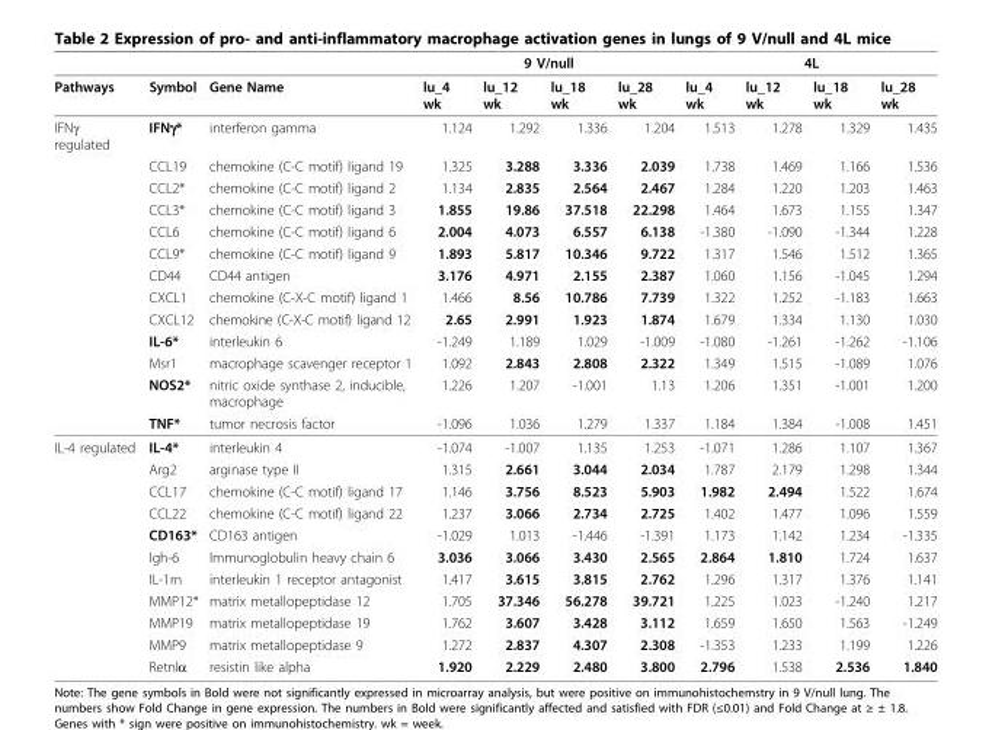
<table><thead><tr><td rowspan="2">Pathways</td><td rowspan="2">Symbol</td><td rowspan="2">Gene Name</td><td colspan="4">9 V/null</td><td colspan="4">4L</td></tr><tr><td>lu_4 wk</td><td>lu_12 wk</td><td>lu_18 wk</td><td>lu_28 wk</td><td>lu_4 wk</td><td>lu_12 wk</td><td>lu_18 wk</td><td>lu_28 wk</td></tr></thead><tbody><tr><td rowspan="13">IFNγ regulated</td><td>IFNγ*</td><td>interferon gamma</td><td>1.124</td><td>1.292</td><td>1.336</td><td>1.204</td><td>1.513</td><td>1.278</td><td>1.329</td><td>1.435</td></tr><tr><td>CCL19</td><td>chemokine (C-C motif) ligand 19</td><td>1.325</td><td>3.288</td><td>3.336</td><td>2.039</td><td>1.738</td><td>1.469</td><td>1.166</td><td>1.536</td></tr><tr><td>CCL2*</td><td>chemokine (C-C motif) ligand 2</td><td>1.134</td><td>2.835</td><td>2.564</td><td>2.467</td><td>1.284</td><td>1.220</td><td>1.203</td><td>1.463</td></tr><tr><td>CCL3*</td><td>chemokine (C-C motif) ligand 3</td><td>1.855</td><td>19.86</td><td>37.518</td><td>22.298</td><td>1.464</td><td>1.673</td><td>1.155</td><td>1.347</td></tr><tr><td>CCL6</td><td>chemokine (C-C motif) ligand 6</td><td>2.004</td><td>4.073</td><td>6.557</td><td>6.138</td><td>-1.380</td><td>-1.090</td><td>-1.344</td><td>1.228</td></tr><tr><td>CCL9*</td><td>chemokine (C-C motif) ligand 9</td><td>1.893</td><td>5.817</td><td>10.346</td><td>9.722</td><td>1.317</td><td>1.546</td><td>1.512</td><td>1.365</td></tr><tr><td>CD44</td><td>CD44 antigen</td><td>3.176</td><td>4.971</td><td>2.155</td><td>2.387</td><td>1.060</td><td>1.156</td><td>-1.045</td><td>1.294</td></tr><tr><td>CXCL1</td><td>chemokine (C-X-C motif) ligand 1</td><td>1.466</td><td>8.56</td><td>10.786</td><td>7.739</td><td>1.322</td><td>1.252</td><td>-1.183</td><td>1.663</td></tr><tr><td>CXCL12</td><td>chemokine (C-X-C motif) ligand 12</td><td>2.65</td><td>2.991</td><td>1.923</td><td>1.874</td><td>1.679</td><td>1.334</td><td>1.130</td><td>1.030</td></tr><tr><td>IL-6*</td><td>interleukin 6</td><td>-1.249</td><td>1.189</td><td>1.029</td><td>-1.009</td><td>-1.080</td><td>-1.261</td><td>-1.262</td><td>-1.106</td></tr><tr><td>Msr1</td><td>macrophage scavenger receptor 1</td><td>1.092</td><td>2.843</td><td>2.808</td><td>2.322</td><td>1.349</td><td>1.515</td><td>-1.089</td><td>1.076</td></tr><tr><td>NOS2*</td><td>nitric oxide synthase 2, inducible, macrophage</td><td>1.226</td><td>1.207</td><td>-1.001</td><td>1.13</td><td>1.206</td><td>1.351</td><td>-1.001</td><td>1.200</td></tr><tr><td>TNF*</td><td>tumor necrosis factor</td><td>-1.096</td><td>1.036</td><td>1.279</td><td>1.337</td><td>1.184</td><td>1.384</td><td>-1.008</td><td>1.451</td></tr><tr><td rowspan="11">IL-4 regulated</td><td>IL-4*</td><td>interleukin 4</td><td>-1.074</td><td>-1.007</td><td>1.135</td><td>1.253</td><td>-1.071</td><td>1.286</td><td>1.107</td><td>1.367</td></tr><tr><td>Arg2</td><td>arginase type II</td><td>1.315</td><td>2.661</td><td>3.044</td><td>2.034</td><td>1.787</td><td>2.179</td><td>1.298</td><td>1.344</td></tr><tr><td>CCL17</td><td>chemokine (C-C motif) ligand 17</td><td>1.146</td><td>3.756</td><td>8.523</td><td>5.903</td><td>1.982</td><td>2.494</td><td>1.522</td><td>1.674</td></tr><tr><td>CCL22</td><td>chemokine (C-C motif) ligand 22</td><td>1.237</td><td>3.066</td><td>2.734</td><td>2.725</td><td>1.402</td><td>1.477</td><td>1.096</td><td>1.559</td></tr><tr><td>CD163*</td><td>CD163 antigen</td><td>-1.029</td><td>1.013</td><td>-1.446</td><td>-1.391</td><td>1.173</td><td>1.142</td><td>1.234</td><td>-1.335</td></tr><tr><td>Igh-6</td><td>Immunoglobulin heavy chain 6</td><td>3.036</td><td>3.066</td><td>3.430</td><td>2.565</td><td>2.864</td><td>1.810</td><td>1.724</td><td>1.637</td></tr><tr><td>IL-1rn</td><td>interleukin 1 receptor antagonist</td><td>1.417</td><td>3.615</td><td>3.815</td><td>2.762</td><td>1.296</td><td>1.317</td><td>1.376</td><td>1.141</td></tr><tr><td>MMP12*</td><td>matrix metallopeptidase 12</td><td>1.705</td><td>37.346</td><td>56.278</td><td>39.721</td><td>1.225</td><td>1.023</td><td>-1.240</td><td>1.217</td></tr><tr><td>MMP19</td><td>matrix metallopeptidase 19</td><td>1.762</td><td>3.607</td><td>3.428</td><td>3.112</td><td>1.659</td><td>1.650</td><td>1.563</td><td>-1.249</td></tr><tr><td>MMP9</td><td>matrix metallopeptidase 9</td><td>1.272</td><td>2.837</td><td>4.307</td><td>2.308</td><td>-1.353</td><td>1.233</td><td>1.199</td><td>1.226</td></tr><tr><td>Retnlα</td><td>resistin like alpha</td><td>1.920</td><td>2.229</td><td>2.480</td><td>3.800</td><td>2.796</td><td>1.538</td><td>2.536</td><td>1.840</td></tr></tbody></table>